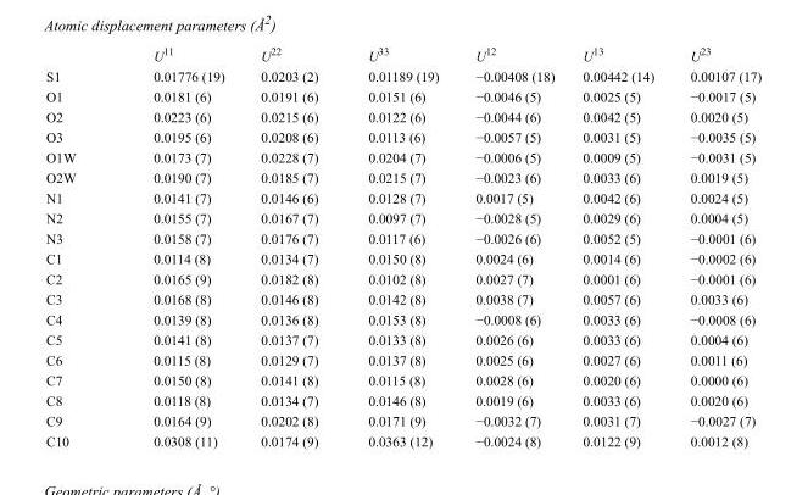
<table><thead><tr><td></td><td>U<sup>11</sup></td><td>U<sup>22</sup></td><td>U<sup>33</sup></td><td>U<sup>12</sup></td><td>U<sup>13</sup></td><td>U<sup>23</sup></td></tr></thead><tbody><tr><td>S1</td><td>0.01776 (19)</td><td>0.0203 (2)</td><td>0.01189 (19)</td><td>−0.00408 (18)</td><td>0.00442 (14)</td><td>0.00107 (17)</td></tr><tr><td>O1</td><td>0.0181 (6)</td><td>0.0191 (6)</td><td>0.0151 (6)</td><td>−0.0046 (5)</td><td>0.0025 (5)</td><td>−0.0017 (5)</td></tr><tr><td>O2</td><td>0.0223 (6)</td><td>0.0215 (6)</td><td>0.0122 (6)</td><td>−0.0044 (6)</td><td>0.0042 (5)</td><td>0.0020 (5)</td></tr><tr><td>O3</td><td>0.0195 (6)</td><td>0.0208 (6)</td><td>0.0113 (6)</td><td>−0.0057 (5)</td><td>0.0031 (5)</td><td>−0.0035 (5)</td></tr><tr><td>O1W</td><td>0.0173 (7)</td><td>0.0228 (7)</td><td>0.0204 (7)</td><td>−0.0006 (5)</td><td>0.0009 (5)</td><td>−0.0031 (5)</td></tr><tr><td>O2W</td><td>0.0190 (7)</td><td>0.0185 (7)</td><td>0.0215 (7)</td><td>−0.0023 (6)</td><td>0.0033 (6)</td><td>0.0019 (5)</td></tr><tr><td>N1</td><td>0.0141 (7)</td><td>0.0146 (6)</td><td>0.0128 (7)</td><td>0.0017 (5)</td><td>0.0042 (6)</td><td>0.0024 (5)</td></tr><tr><td>N2</td><td>0.0155 (7)</td><td>0.0167 (7)</td><td>0.0097 (7)</td><td>−0.0028 (5)</td><td>0.0029 (6)</td><td>0.0004 (5)</td></tr><tr><td>N3</td><td>0.0158 (7)</td><td>0.0176 (7)</td><td>0.0117 (6)</td><td>−0.0026 (6)</td><td>0.0052 (5)</td><td>−0.0001 (6)</td></tr><tr><td>C1</td><td>0.0114 (8)</td><td>0.0134 (7)</td><td>0.0150 (8)</td><td>0.0024 (6)</td><td>0.0014 (6)</td><td>−0.0002 (6)</td></tr><tr><td>C2</td><td>0.0165 (9)</td><td>0.0182 (8)</td><td>0.0102 (8)</td><td>0.0027 (7)</td><td>0.0001 (6)</td><td>−0.0001 (6)</td></tr><tr><td>C3</td><td>0.0168 (8)</td><td>0.0146 (8)</td><td>0.0142 (8)</td><td>0.0038 (7)</td><td>0.0057 (6)</td><td>0.0033 (6)</td></tr><tr><td>C4</td><td>0.0139 (8)</td><td>0.0136 (8)</td><td>0.0153 (8)</td><td>−0.0008 (6)</td><td>0.0033 (6)</td><td>−0.0008 (6)</td></tr><tr><td>C5</td><td>0.0141 (8)</td><td>0.0137 (7)</td><td>0.0133 (8)</td><td>0.0026 (6)</td><td>0.0033 (6)</td><td>0.0004 (6)</td></tr><tr><td>C6</td><td>0.0115 (8)</td><td>0.0129 (7)</td><td>0.0137 (8)</td><td>0.0025 (6)</td><td>0.0027 (6)</td><td>0.0011 (6)</td></tr><tr><td>C7</td><td>0.0150 (8)</td><td>0.0141 (8)</td><td>0.0115 (8)</td><td>0.0028 (6)</td><td>0.0020 (6)</td><td>0.0000 (6)</td></tr><tr><td>C8</td><td>0.0118 (8)</td><td>0.0134 (7)</td><td>0.0146 (8)</td><td>0.0019 (6)</td><td>0.0033 (6)</td><td>0.0020 (6)</td></tr><tr><td>C9</td><td>0.0164 (9)</td><td>0.0202 (8)</td><td>0.0171 (9)</td><td>−0.0032 (7)</td><td>0.0031 (7)</td><td>−0.0027 (7)</td></tr><tr><td>C10</td><td>0.0308 (11)</td><td>0.0174 (9)</td><td>0.0363 (12)</td><td>−0.0024 (8)</td><td>0.0122 (9)</td><td>0.0012 (8)</td></tr></tbody></table>